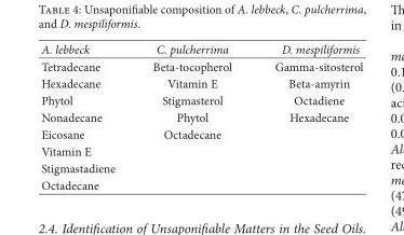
<table><thead><tr><td>A. lebbeck</td><td>C. pulcherrima</td><td>D. mespiliformis</td></tr></thead><tbody><tr><td>Tetradecane</td><td>Beta-tocopherol</td><td>Gamma-sitosterol</td></tr><tr><td>Hexadecane</td><td>Vitamin E</td><td>Beta-amyrin</td></tr><tr><td>Phytol</td><td>Stigmasterol</td><td>Octadiene</td></tr><tr><td>Nonadecane</td><td>Phytol</td><td>Hexadecane</td></tr><tr><td>Eicosane</td><td>Octadecane</td><td></td></tr><tr><td colspan="3">Vitamin E</td></tr><tr><td colspan="3">Stigmastadiene</td></tr><tr><td>Octadecane</td><td></td><td></td></tr></tbody></table>